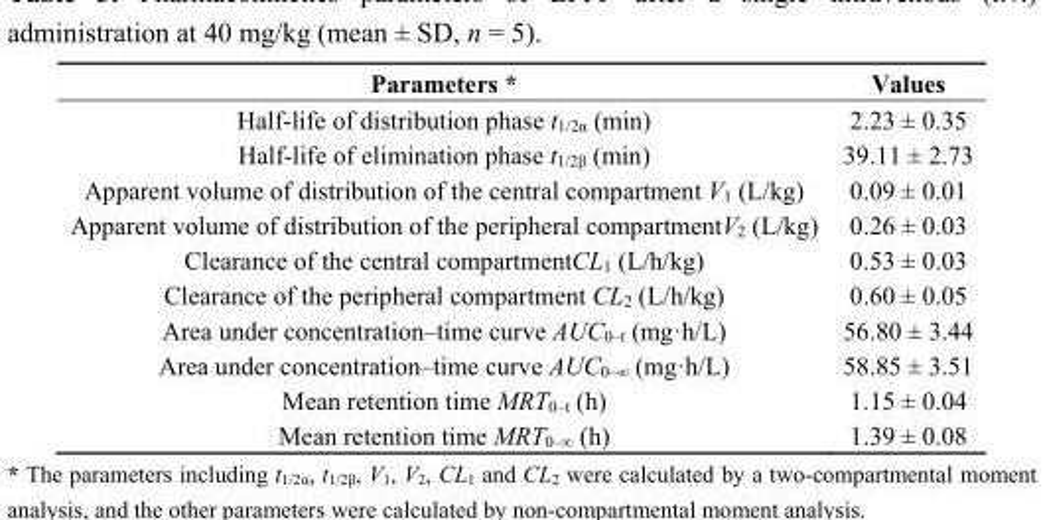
<table><thead><tr><td>Parameters *</td><td>Values</td></tr></thead><tbody><tr><td>Half-life of distribution phase t<sub>1/2α</sub> (min)</td><td>2.23 ± 0.35</td></tr><tr><td>Half-life of elimination phase t<sub>1/2β</sub> (min)</td><td>39.11 ± 2.73</td></tr><tr><td>Apparent volume of distribution of the central compartment V<sub>1</sub> (L/kg)</td><td>0.09 ± 0.01</td></tr><tr><td>Apparent volume of distribution of the peripheral compartmentV<sub>2</sub> (L/kg)</td><td>0.26 ± 0.03</td></tr><tr><td>Clearance of the central compartmentCL<sub>1</sub> (L/h/kg)</td><td>0.53 ± 0.03</td></tr><tr><td>Clearance of the peripheral compartment CL<sub>2</sub> (L/h/kg)</td><td>0.60 ± 0.05</td></tr><tr><td>Area under concentration–time curve AUC<sub>0–t</sub> (mg·h/L)</td><td>56.80 ± 3.44</td></tr><tr><td>Area under concentration–time curve AUC<sub>0–∞</sub> (mg·h/L)</td><td>58.85 ± 3.51</td></tr><tr><td>Mean retention time MRT<sub>0–t</sub> (h)</td><td>1.15 ± 0.04</td></tr><tr><td>Mean retention time MRT<sub>0–∞</sub> (h)</td><td>1.39 ± 0.08</td></tr></tbody></table>